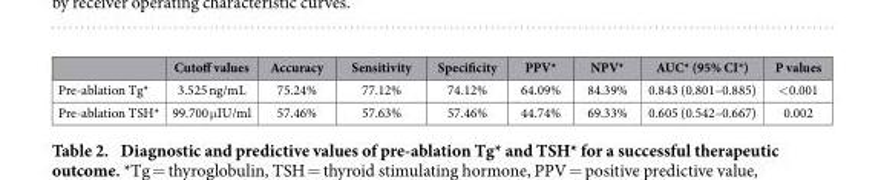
<table><thead><tr><td></td><td>Cutoff values</td><td>Accuracy</td><td>Sensitivity</td><td>Specificity</td><td>PPV*</td><td>NPV*</td><td>AUC* (95% CI*)</td><td>P values</td></tr></thead><tbody><tr><td>Pre-ablation Tg*</td><td>3.525 ng/mL</td><td>75.24%</td><td>77.12%</td><td>74.12%</td><td>64.09%</td><td>84.39%</td><td>0.843 (0.801–0.885)</td><td>&lt; 0.001</td></tr><tr><td>Pre-ablation TSH*</td><td>99.700 μ IU/ml</td><td>57.46%</td><td>57.63%</td><td>57.46%</td><td>44.74%</td><td>69.33%</td><td>0.605 (0.542–0.667)</td><td>0.002</td></tr></tbody></table>